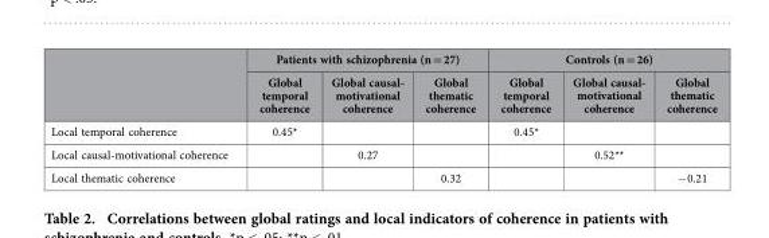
<table><thead><tr><td rowspan="2"></td><td colspan="3">Patients with schizophrenia (n = 27)</td><td colspan="3">Controls (n = 26)</td></tr><tr><td>Global temporal coherence</td><td>Global causal- motivational coherence</td><td>Global thematic coherence</td><td>Global temporal coherence</td><td>Global causal- motivational coherence</td><td>Global thematic coherence</td></tr></thead><tbody><tr><td>Local temporal coherence</td><td>0.45*</td><td></td><td></td><td>0.45*</td><td></td><td></td></tr><tr><td>Local causal-motivational coherence</td><td></td><td>0.27</td><td></td><td></td><td>0.52**</td><td></td></tr><tr><td>Local thematic coherence</td><td></td><td></td><td>0.32</td><td></td><td></td><td>− 0.21</td></tr></tbody></table>